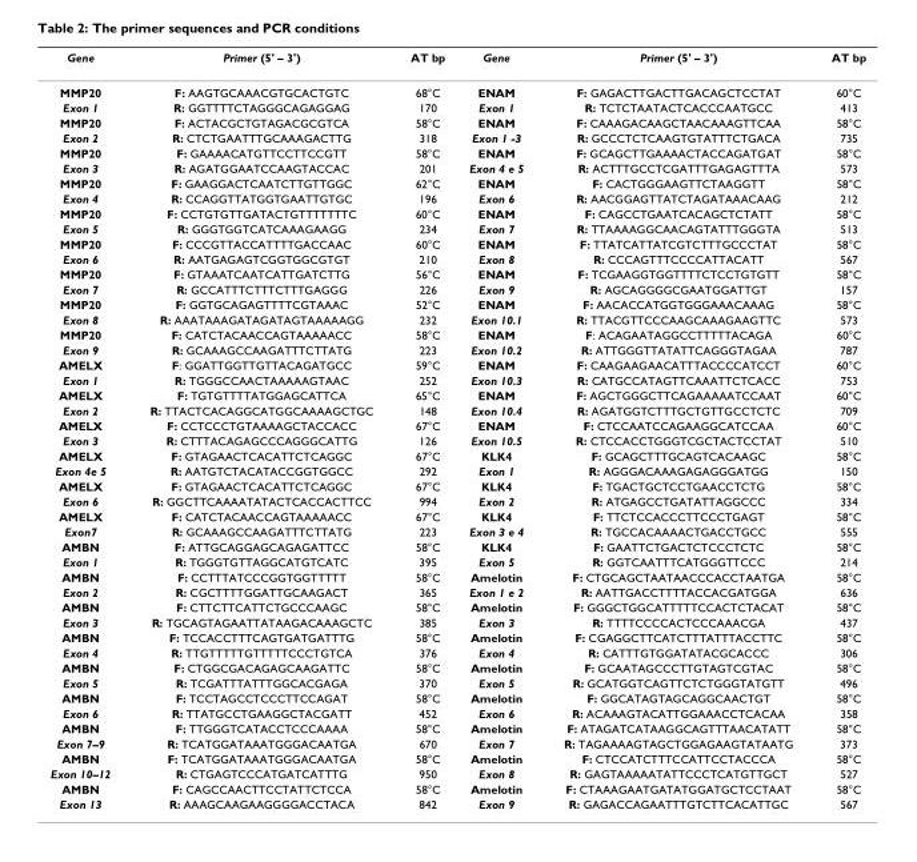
<table><thead><tr><td>Gene</td><td>Primer (5&#x27; – 3&#x27;)</td><td>AT bp</td><td>Gene</td><td>Primer (5&#x27; – 3&#x27;)</td><td>AT bp</td></tr></thead><tbody><tr><td>MMP20</td><td>F: AAGTGCAAACGTGCACTGTC</td><td>68°C</td><td>ENAM</td><td>F: GAGACTTGACTTGACAGCTCCTAT</td><td>60°C</td></tr><tr><td>Exon 1</td><td>R: GGTTTTCTAGGGCAGAGGAG</td><td>170</td><td>Exon 1</td><td>R: TCTCTAATACTCACCCAATGCC</td><td>413</td></tr><tr><td>MMP20</td><td>F: ACTACGCTGTAGACGCGTCA</td><td>58°C</td><td>ENAM</td><td>F: CAAAGACAAGCTAACAAAGTTCAA</td><td>58°C</td></tr><tr><td>Exon 2</td><td>R: CTCTGAATTTGCAAAGACTTG</td><td>318</td><td>Exon 1 -3</td><td>R: GCCCTCTCAAGTGTATTTCTGACA</td><td>735</td></tr><tr><td>MMP20</td><td>F: GAAAACATGTTCCTTCCGTT</td><td>58°C</td><td>ENAM</td><td>F: GCAGCTTGAAAACTACCAGATGAT</td><td>58°C</td></tr><tr><td>Exon 3</td><td>R: AGATGGAATCCAAGTACCAC</td><td>201</td><td>Exon 4 e 5</td><td>R: ACTTTGCCTCGATTTGAGAGTTTA</td><td>573</td></tr><tr><td>MMP20</td><td>F: GAAGGACTCAATCTTGTTGGC</td><td>62°C</td><td>ENAM</td><td>F: CACTGGGAAGTTCTAAGGTT</td><td>58°C</td></tr><tr><td>Exon 4</td><td>R: CCAGGTTATGGTGAATTGTGC</td><td>196</td><td>Exon 6</td><td>R: AACGGAGTTATCTAGATAAACAAG</td><td>212</td></tr><tr><td>MMP20</td><td>F: CCTGTGTTGATACTGTTTTTTTC</td><td>60°C</td><td>ENAM</td><td>F: CAGCCTGAATCACAGCTCTATT</td><td>58°C</td></tr><tr><td>Exon 5</td><td>R: GGGTGGTCATCAAAGAAGG</td><td>234</td><td>Exon 7</td><td>R: TTAAAAGGCAACAGTATTTGGGTA</td><td>513</td></tr><tr><td>MMP20</td><td>F: CCCGTTACCATTTTGACCAAC</td><td>60°C</td><td>ENAM</td><td>F: TTATCATTATCGTCTTTGCCCTAT</td><td>58°C</td></tr><tr><td>Exon 6</td><td>R: AATGAGAGTCGGTGGCGTGT</td><td>210</td><td>Exon 8</td><td>R: CCCAGTTTCCCCATTACATT</td><td>567</td></tr><tr><td>MMP20</td><td>F: GTAAATCAATCATTGATCTTG</td><td>56°C</td><td>ENAM</td><td>F: TCGAAGGTGGTTTTCTCCTGTGTT</td><td>58°C</td></tr><tr><td>Exon 7</td><td>R: GCCATTTCTTTCTTTGAGGG</td><td>226</td><td>Exon 9</td><td>R: AGCAGGGGCGAATGGATTGT</td><td>157</td></tr><tr><td>MMP20</td><td>F: GGTGCAGAGTTTTCGTAAAC</td><td>52°C</td><td>ENAM</td><td>F: AACACCATGGTGGGAAACAAAG</td><td>58°C</td></tr><tr><td>Exon 8</td><td>R: AAATAAAGATAGATAGTAAAAAGG</td><td>232</td><td>Exon 10.1</td><td>R: TTACGTTCCCAAGCAAAGAAGTTC</td><td>573</td></tr><tr><td>MMP20</td><td>F: CATCTACAACCAGTAAAAACC</td><td>58°C</td><td>ENAM</td><td>F: ACAGAATAGGCCTTTTTACAGA</td><td>60°C</td></tr><tr><td>Exon 9</td><td>R: GCAAAGCCAAGATTTCTTATG</td><td>223</td><td>Exon 10.2</td><td>R: ATTGGGTTATATTCAGGGTAGAA</td><td>787</td></tr><tr><td>AMELX</td><td>F: GGATTGGTTGTTACAGATGCC</td><td>59°C</td><td>ENAM</td><td>F: CAAGAAGAACATTTACCCCATCCT</td><td>60°C</td></tr><tr><td>Exon 1</td><td>R: TGGGCCAACTAAAAAGTAAC</td><td>252</td><td>Exon 10.3</td><td>R: CATGCCATAGTTCAAATTCTCACC</td><td>753</td></tr><tr><td>AMELX</td><td>F: TGTGTTTTATGGAGCATTCA</td><td>65°C</td><td>ENAM</td><td>F: AGCTGGGCTTCAGAAAAATCCAAT</td><td>60°C</td></tr><tr><td>Exon 2</td><td>R: TTACTCACAGGCATGGCAAAAGCTGC</td><td>148</td><td>Exon 10.4</td><td>R: AGATGGTCTTTGCTGTTGCCTCTC</td><td>709</td></tr><tr><td>AMELX</td><td>F: CCTCCCTGTAAAAGCTACCACC</td><td>67°C</td><td>ENAM</td><td>F: CTCCAATCCAGAAGGCATCCAA</td><td>60°C</td></tr><tr><td>Exon 3</td><td>R: CTTTACAGAGCCCAGGGCATTG</td><td>126</td><td>Exon 10.5</td><td>R: CTCCACCTGGGTCGCTACTCCTAT</td><td>510</td></tr><tr><td>AMELX</td><td>F: GTAGAACTCACATTCTCAGGC</td><td>67°C</td><td>KLK4</td><td>F: GCAGCTTTGCAGTCACAAGC</td><td>58°C</td></tr><tr><td>Exon 4e 5</td><td>R: AATGTCTACATACCGGTGGCC</td><td>292</td><td>Exon 1</td><td>R: AGGGACAAAGAGAGGGATGG</td><td>150</td></tr><tr><td>AMELX</td><td>F: GTAGAACTCACATTCTCAGGC</td><td>67°C</td><td>KLK4</td><td>F: TGACTGCTCCTGAACCTCTG</td><td>58°C</td></tr><tr><td>Exon 6</td><td>R: GGCTTCAAAATATACTCACCACTTCC</td><td>994</td><td>Exon 2</td><td>R: ATGAGCCTGATATTAGGCCC</td><td>334</td></tr><tr><td>AMELX</td><td>F: CATCTACAACCAGTAAAAACC</td><td>67°C</td><td>KLK4</td><td>F: TTCTCCACCCTTCCCTGAGT</td><td>58°C</td></tr><tr><td>Exon7</td><td>R: GCAAAGCCAAGATTTCTTATG</td><td>223</td><td>Exon 3 e 4</td><td>R: TGCCACAAAACTGACCTGCC</td><td>555</td></tr><tr><td>AMBN</td><td>F: ATTGCAGGAGCAGAGATTCC</td><td>58°C</td><td>KLK4</td><td>F: GAATTCTGACTCTCCCTCTC</td><td>58°C</td></tr><tr><td>Exon 1</td><td>R: TGGGTGTTAGGCATGTCATC</td><td>395</td><td>Exon 5</td><td>R: GGTCAATTTCATGGGTTCCC</td><td>214</td></tr><tr><td>AMBN</td><td>F: CCTTTATCCCGGTGGTTTTT</td><td>58°C</td><td>Amelotin</td><td>F: CTGCAGCTAATAACCCACCTAATGA</td><td>58°C</td></tr><tr><td>Exon 2</td><td>R: CGCTTTTGGATTGCAAGACT</td><td>365</td><td>Exon 1 e 2</td><td>R: AATTGACCTTTTACCACGATGGA</td><td>636</td></tr><tr><td>AMBN</td><td>F: CTTCTTCATTCTGCCCAAGC</td><td>58°C</td><td>Amelotin</td><td>F: GGGCTGGCATTTTTCCACTCTACAT</td><td>58°C</td></tr><tr><td>Exon 3</td><td>R: TGCAGTAGAATTATAAGACAAAGCTC</td><td>385</td><td>Exon 3</td><td>R: TTTTCCCCACTCCCAAACGA</td><td>437</td></tr><tr><td>AMBN</td><td>F: TCCACCTTTCAGTGATGATTTG</td><td>58°C</td><td>Amelotin</td><td>F: CGAGGCTTCATCTTTATTTACCTTC</td><td>58°C</td></tr><tr><td>Exon 4</td><td>R: TTGTTTTTGTTTTTCCCTGTCA</td><td>376</td><td>Exon 4</td><td>R: CATTTGTGGATATACGCACCC</td><td>306</td></tr><tr><td>AMBN</td><td>F: CTGGCGACAGAGCAAGATTC</td><td>58°C</td><td>Amelotin</td><td>F: GCAATAGCCCTTGTAGTCGTAC</td><td>58°C</td></tr><tr><td>Exon 5</td><td>R: TCGATTTATTTGGCACGAGA</td><td>370</td><td>Exon 5</td><td>R: GCATGGTCAGTTCTCTGGGTATGTT</td><td>496</td></tr><tr><td>AMBN</td><td>F: TCCTAGCCTCCCTTCCAGAT</td><td>58°C</td><td>Amelotin</td><td>F: GGCATAGTAGCAGGCAACTGT</td><td>58°C</td></tr><tr><td>Exon 6</td><td>R: TTATGCCTGAAGGCTACGATT</td><td>452</td><td>Exon 6</td><td>R: ACAAAGTACATTGGAAACCTCACAA</td><td>358</td></tr><tr><td>AMBN</td><td>F: TTGGGTCATACCTCCCAAAA</td><td>58°C</td><td>Amelotin</td><td>F: ATAGATCATAAGGCAGTTTAACATATT</td><td>58°C</td></tr><tr><td>Exon 7–9</td><td>R: TCATGGATAAATGGGACAATGA</td><td>670</td><td>Exon 7</td><td>R: TAGAAAAGTAGCTGGAGAAGTATAATG</td><td>373</td></tr><tr><td>AMBN</td><td>F: TCATGGATAAATGGGACAATGA</td><td>58°C</td><td>Amelotin</td><td>F: CTCCATCTTTCCATTCCTACCCA</td><td>58°C</td></tr><tr><td>Exon 10–12</td><td>R: CTGAGTCCCATGATCATTTG</td><td>950</td><td>Exon 8</td><td>R: GAGTAAAAATATTCCCTCATGTTGCT</td><td>527</td></tr><tr><td>AMBN</td><td>F: CAGCCAACTTCCTATTCTCCA</td><td>58°C</td><td>Amelotin</td><td>F: CTAAAGAATGATATGGATGCTCCTAAT</td><td>58°C</td></tr><tr><td>Exon 13</td><td>R: AAAGCAAGAAGGGGACCTACA</td><td>842</td><td>Exon 9</td><td>R: GAGACCAGAATTTGTCTTCACATTGC</td><td>567</td></tr></tbody></table>